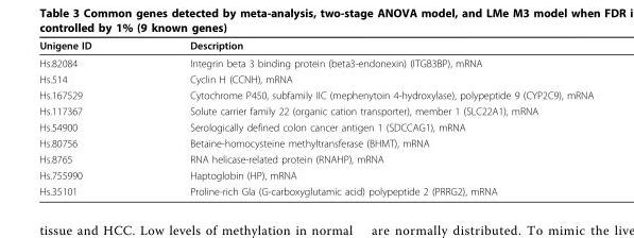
<table><thead><tr><td>Unigene ID</td><td>Description</td></tr></thead><tbody><tr><td>Hs.82084</td><td>Integrin beta 3 binding protein (beta3-endonexin) (ITGB3BP), mRNA</td></tr><tr><td>Hs.514</td><td>Cyclin H (CCNH), mRNA</td></tr><tr><td>Hs.167529</td><td>Cytochrome P450, subfamily IIC (mephenytoin 4-hydroxylase), polypeptide 9 (CYP2C9), mRNA</td></tr><tr><td>Hs.117367</td><td>Solute carrier family 22 (organic cation transporter), member 1 (SLC22A1), mRNA</td></tr><tr><td>Hs.54900</td><td>Serologically defined colon cancer antigen 1 (SDCCAG1), mRNA</td></tr><tr><td>Hs.80756</td><td>Betaine-homocysteine methyltransferase (BHMT), mRNA</td></tr><tr><td>Hs.8765</td><td>RNA helicase-related protein (RNAHP), mRNA</td></tr><tr><td>Hs.755990</td><td>Haptoglobin (HP), mRNA</td></tr><tr><td>Hs.35101</td><td>Proline-rich Gla (G-carboxyglutamic acid) polypeptide 2 (PRRG2), mRNA</td></tr></tbody></table>